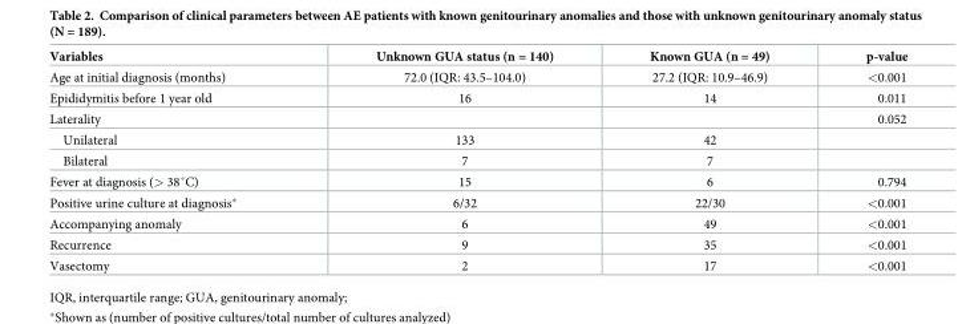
<table><thead><tr><td>Variables</td><td>Unknown GUA status (n = 140)</td><td>Known GUA (n = 49)</td><td>p-value</td></tr></thead><tbody><tr><td>Age at initial diagnosis (months)</td><td>72.0 (IQR: 43.5–104.0)</td><td>27.2 (IQR: 10.9–46.9)</td><td>&lt;0.001</td></tr><tr><td>Epididymitis before 1 year old</td><td>16</td><td>14</td><td>0.011</td></tr><tr><td>Laterality</td><td></td><td></td><td>0.052</td></tr><tr><td>Unilateral</td><td>133</td><td>42</td><td></td></tr><tr><td>Bilateral</td><td>7</td><td>7</td><td></td></tr><tr><td>Fever at diagnosis (&gt; 38˚C)</td><td>15</td><td>6</td><td>0.794</td></tr><tr><td>Positive urine culture at diagnosis*</td><td>6/32</td><td>22/30</td><td>&lt;0.001</td></tr><tr><td>Accompanying anomaly</td><td>6</td><td>49</td><td>&lt;0.001</td></tr><tr><td>Recurrence</td><td>9</td><td>35</td><td>&lt;0.001</td></tr><tr><td>Vasectomy</td><td>2</td><td>17</td><td>&lt;0.001</td></tr></tbody></table>